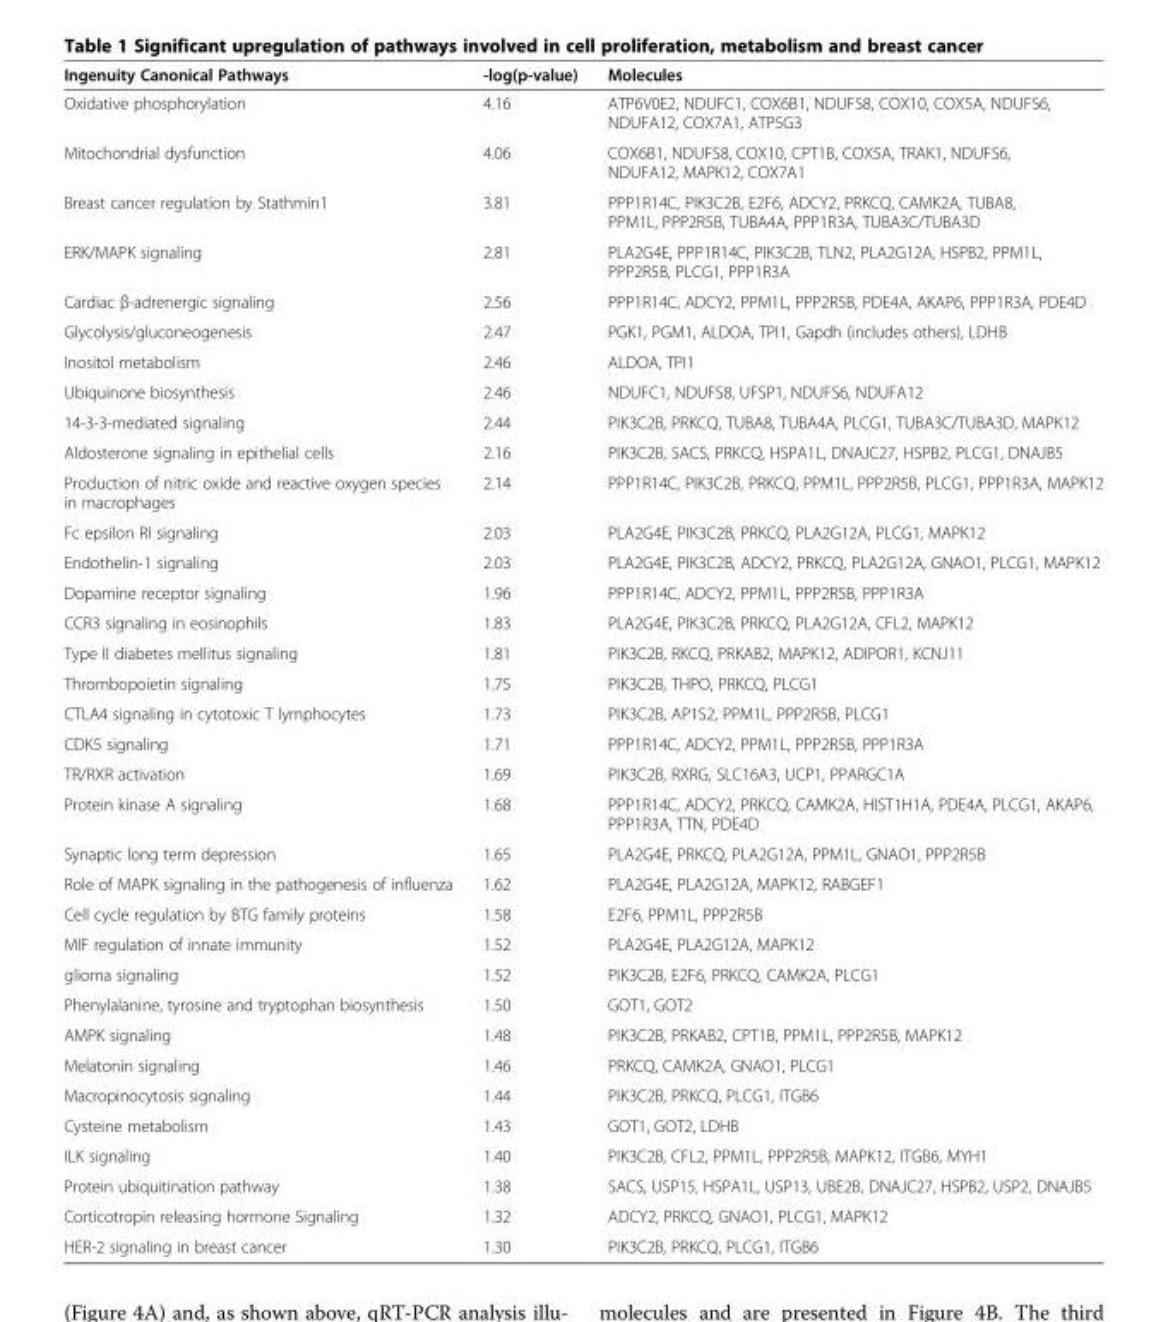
<table><thead><tr><td>Ingenuity Canonical Pathways</td><td>-log(p-value)</td><td>Molecules</td></tr></thead><tbody><tr><td>Oxidative phosphorylation</td><td>4.16</td><td>ATP6V0E2, NDUFC1, COX6B1, NDUFS8, COX10, COX5A, NDUFS6, NDUFA12, COX7A1, ATP5G3</td></tr><tr><td>Mitochondrial dysfunction</td><td>4.06</td><td>COX6B1, NDUFS8, COX10, CPT1B, COX5A, TRAK1, NDUFS6, NDUFA12, MAPK12, COX7A1</td></tr><tr><td>Breast cancer regulation by Stathmin1</td><td>3.81</td><td>PPP1R14C, PIK3C2B, E2F6, ADCY2, PRKCQ, CAMK2A, TUBA8, PPM1L, PPP2R5B, TUBA4A, PPP1R3A, TUBA3C/TUBA3D</td></tr><tr><td>ERK/MAPK signaling</td><td>2.81</td><td>PLA2G4E, PPP1R14C, PIK3C2B, TLN2, PLA2G12A, HSPB2, PPM1L, PPP2R5B, PLCG1, PPP1R3A</td></tr><tr><td>Cardiac β-adrenergic signaling</td><td>2.56</td><td>PPP1R14C, ADCY2, PPM1L, PPP2R5B, PDE4A, AKAP6, PPP1R3A, PDE4D</td></tr><tr><td>Glycolysis/gluconeogenesis</td><td>2.47</td><td>PGK1, PGM1, ALDOA, TPI1, Gapdh (includes others), LDHB</td></tr><tr><td>Inositol metabolism</td><td>2.46</td><td>ALDOA, TPI1</td></tr><tr><td>Ubiquinone biosynthesis</td><td>2.46</td><td>NDUFC1, NDUFS8, UFSP1, NDUFS6, NDUFA12</td></tr><tr><td>14-3-3-mediated signaling</td><td>2.44</td><td>PIK3C2B, PRKCQ, TUBA8, TUBA4A, PLCG1, TUBA3C/TUBA3D, MAPK12</td></tr><tr><td>Aldosterone signaling in epithelial cells</td><td>2.16</td><td>PIK3C2B, SACS, PRKCQ, HSPA1L, DNAJC27, HSPB2, PLCG1, DNAJB5</td></tr><tr><td>Production of nitric oxide and reactive oxygen species in macrophages</td><td>2.14</td><td>PPP1R14C, PIK3C2B, PRKCQ, PPM1L, PPP2R5B, PLCG1, PPP1R3A, MAPK12</td></tr><tr><td>Fc epsilon RI signaling</td><td>2.03</td><td>PLA2G4E, PIK3C2B, PRKCQ, PLA2G12A, PLCG1, MAPK12</td></tr><tr><td>Endothelin-1 signaling</td><td>2.03</td><td>PLA2G4E, PIK3C2B, ADCY2, PRKCQ, PLA2G12A, GNAO1, PLCG1, MAPK12</td></tr><tr><td>Dopamine receptor signaling</td><td>1.96</td><td>PPP1R14C, ADCY2, PPM1L, PPP2R5B, PPP1R3A</td></tr><tr><td>CCR3 signaling in eosinophils</td><td>1.83</td><td>PLA2G4E, PIK3C2B, PRKCQ, PLA2G12A, CFL2, MAPK12</td></tr><tr><td>Type II diabetes mellitus signaling</td><td>1.81</td><td>PIK3C2B, RKCQ, PRKAB2, MAPK12, ADIPOR1, KCNJ11</td></tr><tr><td>Thrombopoietin signaling</td><td>1.75</td><td>PIK3C2B, THPO, PRKCQ, PLCG1</td></tr><tr><td>CTLA4 signaling in cytotoxic T lymphocytes</td><td>1.73</td><td>PIK3C2B, AP1S2, PPM1L, PPP2R5B, PLCG1</td></tr><tr><td>CDK5 signaling</td><td>1.71</td><td>PPP1R14C, ADCY2, PPM1L, PPP2R5B, PPP1R3A</td></tr><tr><td>TR/RXR activation</td><td>1.69</td><td>PIK3C2B, RXRG, SLC16A3, UCP1, PPARGC1A</td></tr><tr><td>Protein kinase A signaling</td><td>1.68</td><td>PPP1R14C, ADCY2, PRKCQ, CAMK2A, HIST1H1A, PDE4A, PLCG1, AKAP6, PPP1R3A, TTN, PDE4D</td></tr><tr><td>Synaptic long term depression</td><td>1.65</td><td>PLA2G4E, PRKCQ, PLA2G12A, PPM1L, GNAO1, PPP2R5B</td></tr><tr><td>Role of MAPK signaling in the pathogenesis of influenza</td><td>1.62</td><td>PLA2G4E, PLA2G12A, MAPK12, RABGEF1</td></tr><tr><td>Cell cycle regulation by BTG family proteins</td><td>1.58</td><td>E2F6, PPM1L, PPP2R5B</td></tr><tr><td>MIF regulation of innate immunity</td><td>1.52</td><td>PLA2G4E, PLA2G12A, MAPK12</td></tr><tr><td>glioma signaling</td><td>1.52</td><td>PIK3C2B, E2F6, PRKCQ, CAMK2A, PLCG1</td></tr><tr><td>Phenylalanine, tyrosine and tryptophan biosynthesis</td><td>1.50</td><td>GOT1, GOT2</td></tr><tr><td>AMPK signaling</td><td>1.48</td><td>PIK3C2B, PRKAB2, CPT1B, PPM1L, PPP2R5B, MAPK12</td></tr><tr><td>Melatonin signaling</td><td>1.46</td><td>PRKCQ, CAMK2A, GNAO1, PLCG1</td></tr><tr><td>Macropinocytosis signaling</td><td>1.44</td><td>PIK3C2B, PRKCQ, PLCG1, ITGB6</td></tr><tr><td>Cysteine metabolism</td><td>1.43</td><td>GOT1, GOT2, LDHB</td></tr><tr><td>ILK signaling</td><td>1.40</td><td>PIK3C2B, CFL2, PPM1L, PPP2R5B, MAPK12, ITGB6, MYH1</td></tr><tr><td>Protein ubiquitination pathway</td><td>1.38</td><td>SACS, USP15, HSPA1L, USP13, UBE2B, DNAJC27, HSPB2, USP2, DNAJB5</td></tr><tr><td>Corticotropin releasing hormone Signaling</td><td>1.32</td><td>ADCY2, PRKCQ, GNAO1, PLCG1, MAPK12</td></tr><tr><td>HER-2 signaling in breast cancer</td><td>1.30</td><td>PIK3C2B, PRKCQ, PLCG1, ITGB6</td></tr></tbody></table>